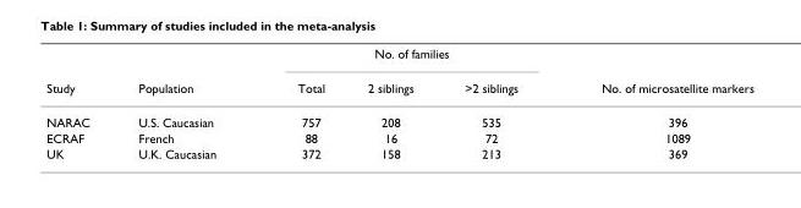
<table><thead><tr><td rowspan="2">Study</td><td rowspan="2">Population</td><td colspan="3">No. of families</td><td rowspan="2">No. of microsatellite markers</td></tr><tr><td>Total</td><td>2 siblings</td><td>&gt;2 siblings</td></tr></thead><tbody><tr><td>NARAC</td><td>U.S. Caucasian</td><td>757</td><td>208</td><td>535</td><td>396</td></tr><tr><td>ECRAF</td><td>French</td><td>88</td><td>16</td><td>72</td><td>1089</td></tr><tr><td>UK</td><td>U.K. Caucasian</td><td>372</td><td>158</td><td>213</td><td>369</td></tr></tbody></table>